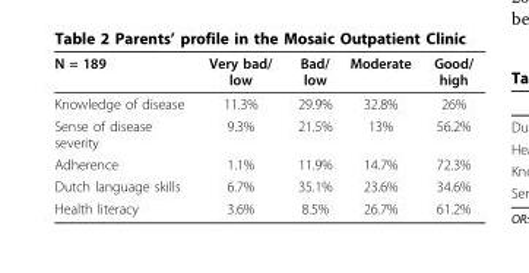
<table><thead><tr><td>N = 189</td><td>Very bad/ low</td><td>Bad/ low</td><td>Moderate</td><td>Good/ high</td></tr></thead><tbody><tr><td>Knowledge of disease</td><td>11.3%</td><td>29.9%</td><td>32.8%</td><td>26%</td></tr><tr><td>Sense of disease severity</td><td>9.3%</td><td>21.5%</td><td>13%</td><td>56.2%</td></tr><tr><td>Adherence</td><td>1.1%</td><td>11.9%</td><td>14.7%</td><td>72.3%</td></tr><tr><td>Dutch language skills</td><td>6.7%</td><td>35.1%</td><td>23.6%</td><td>34.6%</td></tr><tr><td>Health literacy</td><td>3.6%</td><td>8.5%</td><td>26.7%</td><td>61.2%</td></tr></tbody></table>